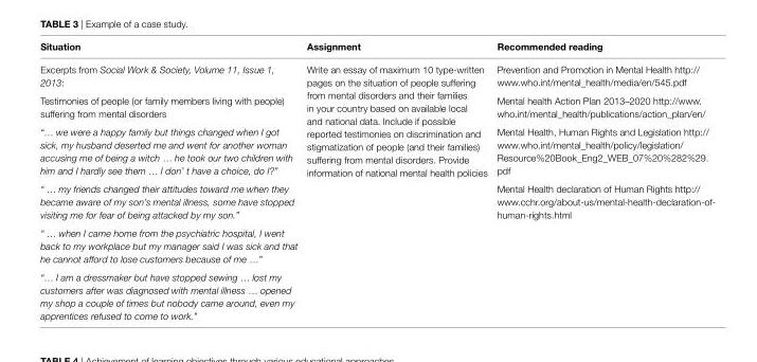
<table><thead><tr><td>situation</td><td>assignment</td><td>recommended reading</td></tr></thead><tbody><tr><td>Excerpts from Social Work &amp; Society, Volume 11, Issue 1, 2013: Testimonies of people (or family members living with people) suffering from mental disorders “… we were a happy family but things changed when I got sick, my husband deserted me and went for another woman accusing me of being a witch … he took our two children with him and I hardly see them … I don’ t have a choice, do I?” “ … my friends changed their attitudes toward me when they became aware of my son’s mental illness, some have stopped visiting me for fear of being attacked by my son.” “ … when I came home from the psychiatric hospital, I went back to my workplace but my manager said I was sick and that he cannot afford to lose customers because of me …” “… I am a dressmaker but have stopped sewing … lost my customers after was diagnosed with mental illness … opened my shop a couple of times but nobody came around, even my apprentices refused to come to work.”</td><td>Write an essay of maximum 10 type-written pages on the situation of people suffering from mental disorders and their families in your country based on available local and national data. Include if possible reported testimonies on discrimination and stigmatization of people (and their families) suffering from mental disorders. Provide information of national mental health policies</td><td>Prevention and Promotion in Mental Health http:// www.who.int/mental_health/media/en/545.pdf Mental health Action Plan 2013–2020 http://www. who.int/mental_health/publications/action_plan/en/ Mental Health, Human Rights and Legislation http:// www.who.int/mental_health/policy/legislation/ Resource%20Book_Eng2_WEB_07%20%282%29. pdf Mental Health declaration of Human Rights http:// www.cchr.org/about-us/mental-health-declaration-of- human-rights.html</td></tr></tbody></table>